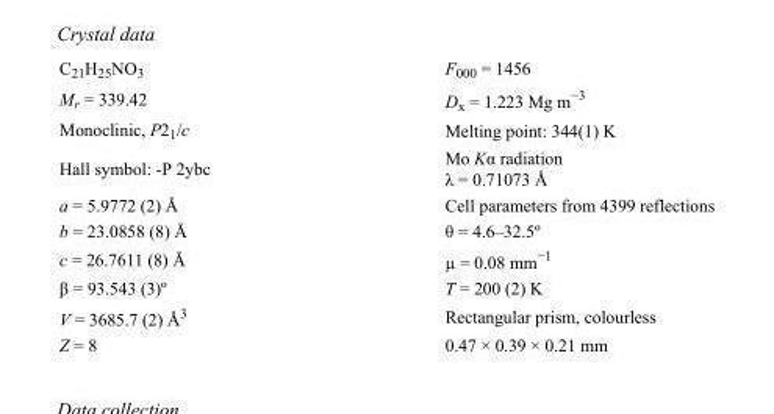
<table><tbody><tr><td>C<sub>21</sub>H<sub>25</sub>NO<sub>3</sub></td><td>F<sub>000</sub> = 1456</td></tr><tr><td>M<sub>r</sub> = 339.42</td><td>D<sub>x</sub> = 1.223 Mg m<sup>−3</sup></td></tr><tr><td>Monoclinic, P2<sub>1</sub>/c</td><td>Melting point: 344(1) K</td></tr><tr><td>Hall symbol: -P 2ybc</td><td>Mo Kα radiation λ = 0.71073 Å</td></tr><tr><td>a = 5.9772 (2) Å</td><td>Cell parameters from 4399 reflections</td></tr><tr><td>b = 23.0858 (8) Å</td><td>θ = 4.6–32.5º</td></tr><tr><td>c = 26.7611 (8) Å</td><td>µ = 0.08 mm<sup>−1</sup></td></tr><tr><td>β = 93.543 (3)º</td><td>T = 200 (2) K</td></tr><tr><td>V = 3685.7 (2) Å<sup>3</sup></td><td>Rectangular prism, colourless</td></tr><tr><td>Z = 8</td><td>0.47 × 0.39 × 0.21 mm</td></tr></tbody></table>